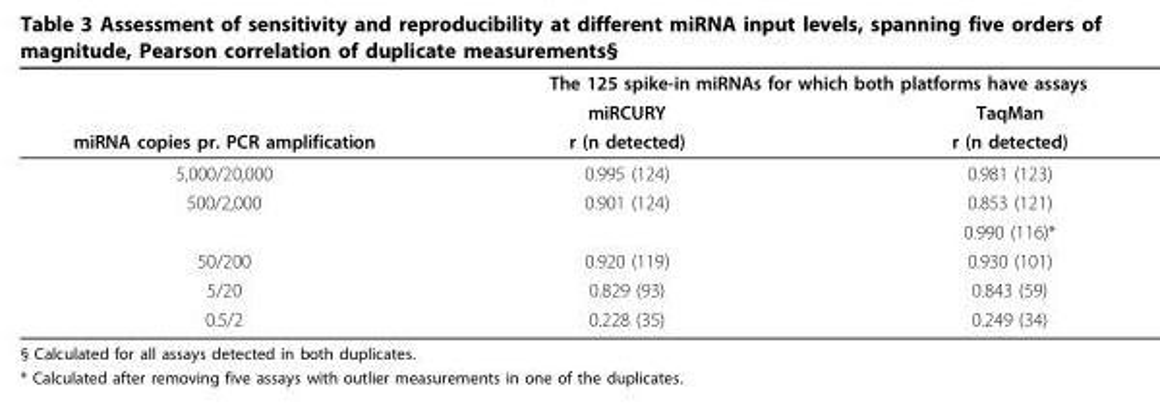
<table><thead><tr><td rowspan="3">miRNA copies pr. PCR amplification</td><td colspan="2">The 125 spike-in miRNAs for which both platforms have assays</td></tr><tr><td rowspan="2">miRCURY r (n detected)</td><td rowspan="2">TaqMan r (n detected)</td></tr><tr></tr></thead><tbody><tr><td>5,000/20,000</td><td>0.995 (124)</td><td>0.981 (123)</td></tr><tr><td rowspan="2">500/2,000</td><td>0.901 (124)</td><td>0.853 (121)</td></tr><tr><td></td><td>0.990 (116)*</td></tr><tr><td>50/200</td><td>0.920 (119)</td><td>0.930 (101)</td></tr><tr><td>5/20</td><td>0.829 (93)</td><td>0.843 (59)</td></tr><tr><td>0.5/2</td><td>0.228 (35)</td><td>0.249 (34)</td></tr></tbody></table>